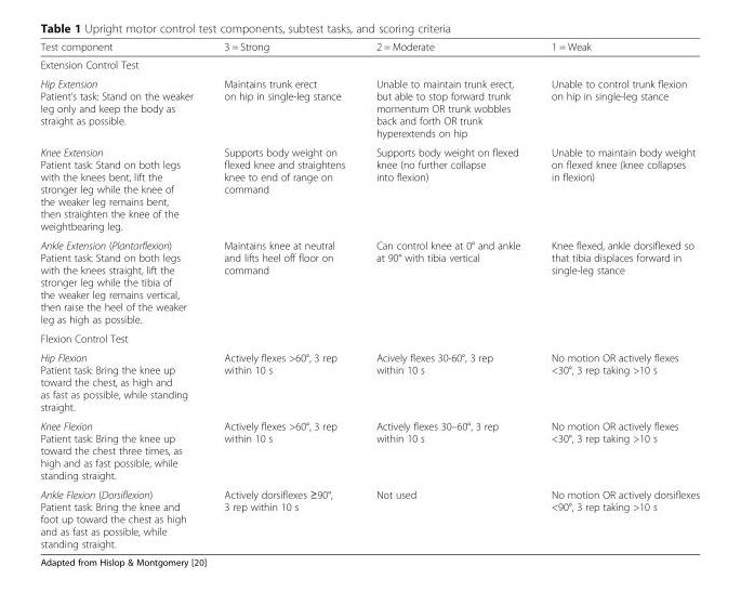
<table><thead><tr><td>Test component</td><td>3 = Strong</td><td>2 = Moderate</td><td>1 = Weak</td></tr></thead><tbody><tr><td colspan="4">Extension Control Test</td></tr><tr><td>Hip Extension Patient’s task: Stand on the weaker leg only and keep the body as straight as possible.</td><td>Maintains trunk erect on hip in single-leg stance</td><td>Unable to maintain trunk erect, but able to stop forward trunk momentum OR trunk wobbles back and forth OR trunk hyperextends on hip</td><td>Unable to control trunk flexion on hip in single-leg stance</td></tr><tr><td>Knee Extension Patient task: Stand on both legs with the knees bent, lift the stronger leg while the knee of the weaker leg remains bent, then straighten the knee of the weightbearing leg.</td><td>Supports body weight on flexed knee and straightens knee to end of range on command</td><td>Supports body weight on flexed knee (no further collapse into flexion)</td><td>Unable to maintain body weight on flexed knee (knee collapses in flexion)</td></tr><tr><td>Ankle Extension (Plantarflexion) Patient task: Stand on both legs with the knees straight, lift the stronger leg while the tibia of the weaker leg remains vertical, then raise the heel of the weaker leg as high as possible.</td><td>Maintains knee at neutral and lifts heel off floor on command</td><td>Can control knee at 0° and ankle at 90° with tibia vertical</td><td>Knee flexed, ankle dorsiflexed so that tibia displaces forward in single-leg stance</td></tr><tr><td colspan="4">Flexion Control Test</td></tr><tr><td>Hip Flexion Patient task: Bring the knee up toward the chest, as high and as fast as possible, while standing straight.</td><td>Actively flexes &gt;60°, 3 rep within 10 s</td><td>Acively flexes 30-60°, 3 rep within 10 s</td><td>No motion OR actively flexes &lt;30°, 3 rep taking &gt;10 s</td></tr><tr><td>Knee Flexion Patient task: Bring the knee up toward the chest three times, as high and as fast possible, while standing straight.</td><td>Actively flexes &gt;60°, 3 rep within 10 s</td><td>Actively flexes 30–60°, 3 rep within 10 s</td><td>No motion OR actively flexes &lt;30°, 3 rep taking &gt;10 s</td></tr><tr><td>Ankle Flexion (Dorsiflexion) Patient task: Bring the knee and foot up toward the chest as high and as fast as possible, while standing straight.</td><td>Actively dorsiflexes ≥90°, 3 rep within 10 s</td><td>Not used</td><td>No motion OR actively dorsiflexes &lt;90°, 3 rep taking &gt;10 s</td></tr></tbody></table>